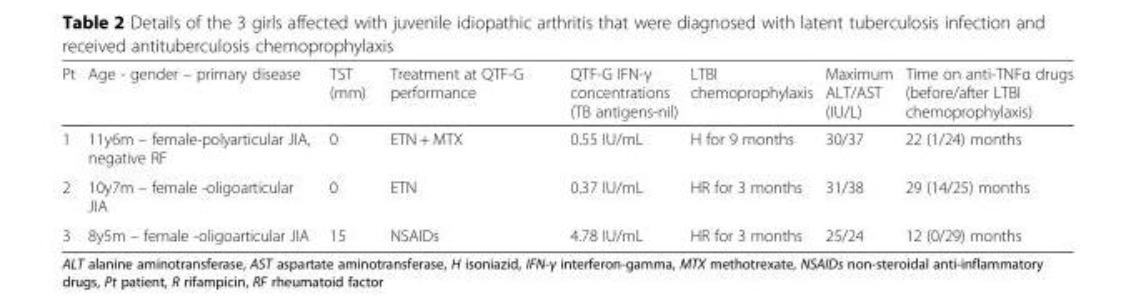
<table><thead><tr><td>Pt</td><td>Age - gender – primary disease</td><td>TST (mm)</td><td>Treatment at QTF-G performance</td><td>QTF-G IFN-γ concentrations (TB antigens-nil)</td><td>LTBI chemoprophylaxis</td><td>Maximum ALT/AST (IU/L)</td><td>Time on anti-TNFα drugs (before/after LTBI chemoprophylaxis)</td></tr></thead><tbody><tr><td>1</td><td>11y6m – female-polyarticular JIA, negative RF</td><td>0</td><td>ETN + MTX</td><td>0.55 IU/mL</td><td>H for 9 months</td><td>30/37</td><td>22 (1/24) months</td></tr><tr><td>2</td><td>10y7m – female -oligoarticular JIA</td><td>0</td><td>ETN</td><td>0.37 IU/mL</td><td>HR for 3 months</td><td>31/38</td><td>29 (14/25) months</td></tr><tr><td>3</td><td>8y5m – female -oligoarticular JIA</td><td>15</td><td>NSAIDs</td><td>4.78 IU/mL</td><td>HR for 3 months</td><td>25/24</td><td>12 (0/29) months</td></tr></tbody></table>